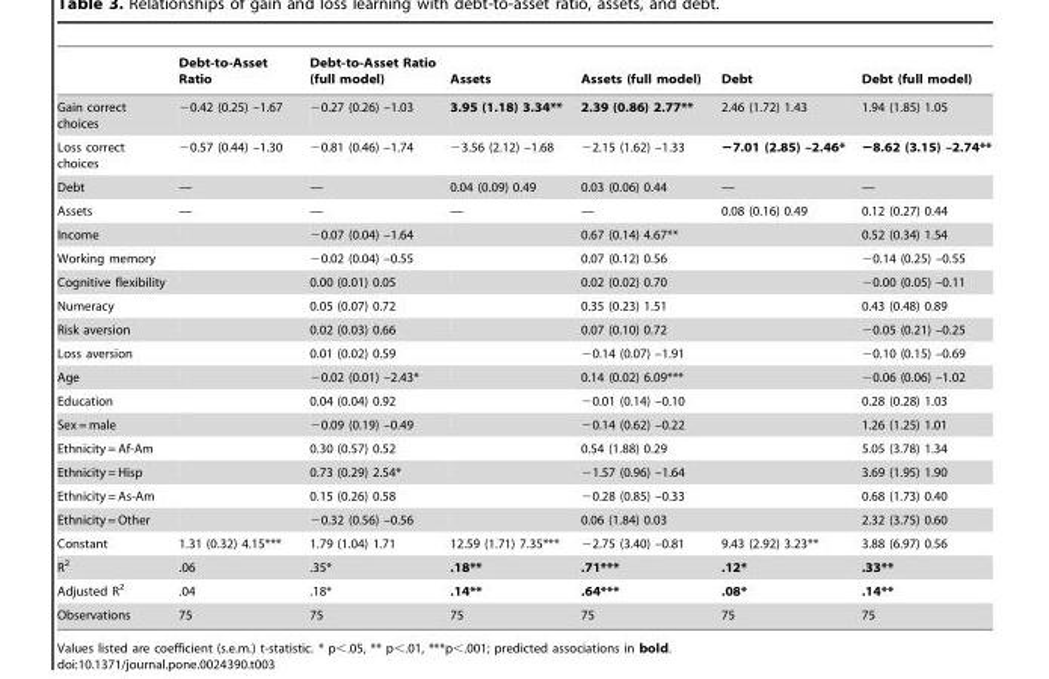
<table><thead><tr><td></td><td>Debt-to-Asset Ratio</td><td>Debt-to-Asset Ratio (full model)</td><td>Assets</td><td>Assets (full model)</td><td>Debt</td><td>Debt (full model)</td></tr></thead><tbody><tr><td>Gain correct choices</td><td>−0.42 (0.25) –1.67</td><td>−0.27 (0.26) –1.03</td><td>3.95 (1.18) 3.34**</td><td>2.39 (0.86) 2.77**</td><td>2.46 (1.72) 1.43</td><td>1.94 (1.85) 1.05</td></tr><tr><td>Loss correct choices</td><td>−0.57 (0.44) –1.30</td><td>−0.81 (0.46) –1.74</td><td>−3.56 (2.12) –1.68</td><td>−2.15 (1.62) –1.33</td><td>−7.01 (2.85) –2.46*</td><td>−8.62 (3.15) –2.74**</td></tr><tr><td>Debt</td><td>—</td><td>—</td><td>0.04 (0.09) 0.49</td><td>0.03 (0.06) 0.44</td><td>—</td><td>—</td></tr><tr><td>Assets</td><td>—</td><td>—</td><td>—</td><td>—</td><td>0.08 (0.16) 0.49</td><td>0.12 (0.27) 0.44</td></tr><tr><td>Income</td><td></td><td>−0.07 (0.04) –1.64</td><td></td><td>0.67 (0.14) 4.67**</td><td></td><td>0.52 (0.34) 1.54</td></tr><tr><td>Working memory</td><td></td><td>−0.02 (0.04) –0.55</td><td></td><td>0.07 (0.12) 0.56</td><td></td><td>−0.14 (0.25) –0.55</td></tr><tr><td>Cognitive flexibility</td><td></td><td>0.00 (0.01) 0.05</td><td></td><td>0.02 (0.02) 0.70</td><td></td><td>−0.00 (0.05) –0.11</td></tr><tr><td>Numeracy</td><td></td><td>0.05 (0.07) 0.72</td><td></td><td>0.35 (0.23) 1.51</td><td></td><td>0.43 (0.48) 0.89</td></tr><tr><td>Risk aversion</td><td></td><td>0.02 (0.03) 0.66</td><td></td><td>0.07 (0.10) 0.72</td><td></td><td>−0.05 (0.21) –0.25</td></tr><tr><td>Loss aversion</td><td></td><td>0.01 (0.02) 0.59</td><td></td><td>−0.14 (0.07) –1.91</td><td></td><td>−0.10 (0.15) –0.69</td></tr><tr><td>Age</td><td></td><td>−0.02 (0.01) –2.43*</td><td></td><td>0.14 (0.02) 6.09***</td><td></td><td>−0.06 (0.06) –1.02</td></tr><tr><td>Education</td><td></td><td>0.04 (0.04) 0.92</td><td></td><td>−0.01 (0.14) –0.10</td><td></td><td>0.28 (0.28) 1.03</td></tr><tr><td>Sex = male</td><td></td><td>−0.09 (0.19) –0.49</td><td></td><td>−0.14 (0.62) –0.22</td><td></td><td>1.26 (1.25) 1.01</td></tr><tr><td>Ethnicity = Af-Am</td><td></td><td>0.30 (0.57) 0.52</td><td></td><td>0.54 (1.88) 0.29</td><td></td><td>5.05 (3.78) 1.34</td></tr><tr><td>Ethnicity = Hisp</td><td></td><td>0.73 (0.29) 2.54*</td><td></td><td>−1.57 (0.96) –1.64</td><td></td><td>3.69 (1.95) 1.90</td></tr><tr><td>Ethnicity = As-Am</td><td></td><td>0.15 (0.26) 0.58</td><td></td><td>−0.28 (0.85) –0.33</td><td></td><td>0.68 (1.73) 0.40</td></tr><tr><td>Ethnicity = Other</td><td></td><td>−0.32 (0.56) –0.56</td><td></td><td>0.06 (1.84) 0.03</td><td></td><td>2.32 (3.75) 0.60</td></tr><tr><td>Constant</td><td>1.31 (0.32) 4.15***</td><td>1.79 (1.04) 1.71</td><td>12.59 (1.71) 7.35***</td><td>−2.75 (3.40) –0.81</td><td>9.43 (2.92) 3.23**</td><td>3.88 (6.97) 0.56</td></tr><tr><td>R<sup>2</sup></td><td>.06</td><td>.35*</td><td>.18**</td><td>.71***</td><td>.12*</td><td>.33**</td></tr><tr><td>Adjusted R<sup>2</sup></td><td>.04</td><td>.18*</td><td>.14**</td><td>.64***</td><td>.08*</td><td>.14**</td></tr><tr><td>Observations</td><td>75</td><td>75</td><td>75</td><td>75</td><td>75</td><td>75</td></tr></tbody></table>